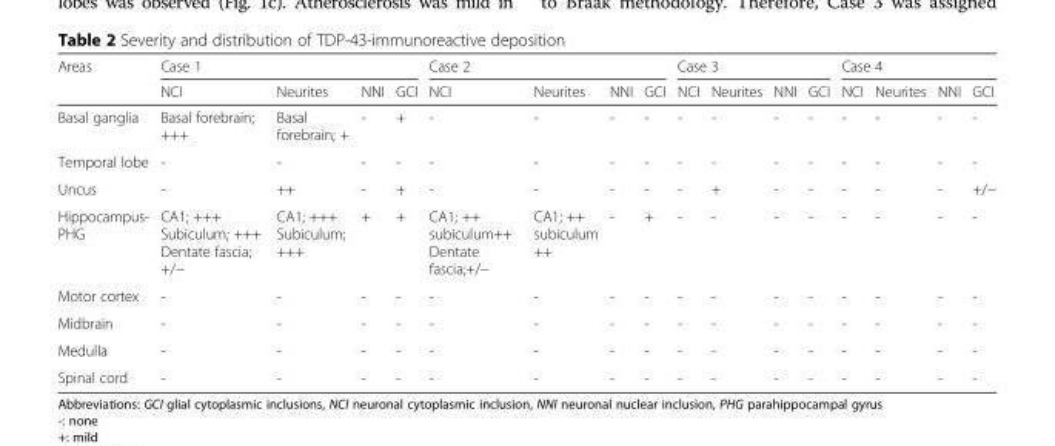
<table><thead><tr><td rowspan="2">Areas</td><td colspan="4">Case 1</td><td colspan="4">Case 2</td><td colspan="4">Case 3</td><td colspan="4">Case 4</td></tr><tr><td>NCI</td><td>Neurites</td><td>NNI</td><td>GCI</td><td>NCI</td><td>Neurites</td><td>NNI</td><td>GCI</td><td>NCI</td><td>Neurites</td><td>NNI</td><td>GCI</td><td>NCI</td><td>Neurites</td><td>NNI</td><td>GCI</td></tr></thead><tbody><tr><td>Basal ganglia</td><td>Basal forebrain; +++</td><td>Basal forebrain; +</td><td>-</td><td>+</td><td>-</td><td>-</td><td>-</td><td>-</td><td>-</td><td>-</td><td>-</td><td>-</td><td>-</td><td>-</td><td>-</td><td>-</td></tr><tr><td>Temporal lobe</td><td>-</td><td>-</td><td>-</td><td>-</td><td>-</td><td>-</td><td>-</td><td>-</td><td>-</td><td>-</td><td>-</td><td>-</td><td>-</td><td>-</td><td>-</td><td>-</td></tr><tr><td>Uncus</td><td>-</td><td>++</td><td>-</td><td>+</td><td>-</td><td>-</td><td>-</td><td>-</td><td>-</td><td>+</td><td>-</td><td>-</td><td>-</td><td>-</td><td>-</td><td>+/−</td></tr><tr><td>Hippocampus- PHG</td><td>CA1; +++ Subiculum; +++ Dentate fascia; +/−</td><td>CA1; +++ Subiculum; +++</td><td>+</td><td>+</td><td>CA1; ++ subiculum++ Dentate fascia;+/−</td><td>CA1; ++ subiculum ++</td><td>-</td><td>+</td><td>-</td><td>-</td><td>-</td><td>-</td><td>-</td><td>-</td><td>-</td><td>-</td></tr><tr><td>Motor cortex</td><td>-</td><td>-</td><td>-</td><td>-</td><td>-</td><td>-</td><td>-</td><td>-</td><td>-</td><td>-</td><td>-</td><td>-</td><td>-</td><td>-</td><td>-</td><td>-</td></tr><tr><td>Midbrain</td><td>-</td><td>-</td><td>-</td><td>-</td><td>-</td><td>-</td><td>-</td><td>-</td><td>-</td><td>-</td><td>-</td><td>-</td><td>-</td><td>-</td><td>-</td><td>-</td></tr><tr><td>Medulla</td><td>-</td><td>-</td><td>-</td><td>-</td><td>-</td><td>-</td><td>-</td><td>-</td><td>-</td><td>-</td><td>-</td><td>-</td><td>-</td><td>-</td><td>-</td><td>-</td></tr><tr><td>Spinal cord</td><td>-</td><td>-</td><td>-</td><td>-</td><td>-</td><td>-</td><td>-</td><td>-</td><td>-</td><td>-</td><td>-</td><td>-</td><td>-</td><td>-</td><td>-</td><td>-</td></tr></tbody></table>